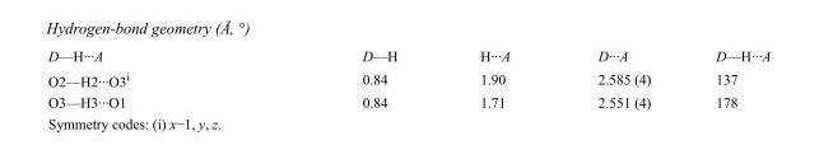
<table><tbody><tr><td>D—H···A</td><td>D—H</td><td>H···A</td><td>D···A</td><td>D—H···A</td></tr><tr><td>O2—H2···O3<sup>i</sup></td><td>0.84</td><td>1.90</td><td>2.585 (4)</td><td>137</td></tr><tr><td>O3—H3···O1</td><td>0.84</td><td>1.71</td><td>2.551 (4)</td><td>178</td></tr></tbody></table>